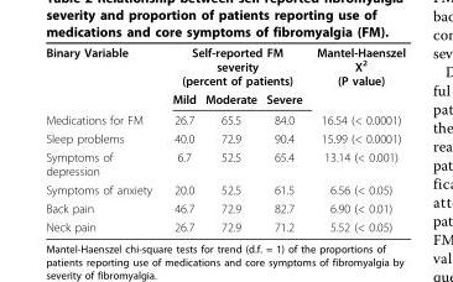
<table><tbody><tr><td rowspan="2">Binary Variable</td><td colspan="3">Self-reported FM severity (percent of patients)</td><td>Mantel-Haenszel Χ<sup>2</sup> (P value)</td></tr><tr><td>Mild</td><td>Moderate</td><td>Severe</td><td></td></tr><tr><td>Medications for FM</td><td>26.7</td><td>65.5</td><td>84.0</td><td>16.54 (&lt; 0.0001)</td></tr><tr><td>Sleep problems</td><td>40.0</td><td>72.9</td><td>90.4</td><td>15.99 (&lt; 0.0001)</td></tr><tr><td>Symptoms of depression</td><td>6.7</td><td>52.5</td><td>65.4</td><td>13.14 (&lt; 0.001)</td></tr><tr><td>Symptoms of anxiety</td><td>20.0</td><td>52.5</td><td>61.5</td><td>6.56 (&lt; 0.05)</td></tr><tr><td>Back pain</td><td>46.7</td><td>72.9</td><td>82.7</td><td>6.90 (&lt; 0.01)</td></tr><tr><td>Neck pain</td><td>26.7</td><td>72.9</td><td>71.2</td><td>5.52 (&lt; 0.05)</td></tr></tbody></table>